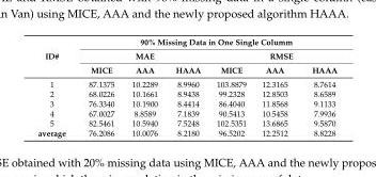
<table><thead><tr><td rowspan="3">ID#</td><td colspan="6">90% Missing Data in One Single Columm</td></tr><tr><td colspan="3">MAE</td><td colspan="3">RMSE</td></tr><tr><td>MICE</td><td>AAA</td><td>HAAA</td><td>MICE</td><td>AAA</td><td>HAAA</td></tr></thead><tbody><tr><td>1</td><td>87.1375</td><td>10.2289</td><td>8.9960</td><td>103.8879</td><td>12.3165</td><td>8.7614</td></tr><tr><td>2</td><td>68.0226</td><td>10.1661</td><td>8.9438</td><td>99.2328</td><td>12.8503</td><td>8.6589</td></tr><tr><td>3</td><td>76.3340</td><td>10.1900</td><td>8.4414</td><td>86.4040</td><td>11.8568</td><td>9.1133</td></tr><tr><td>4</td><td>67.0027</td><td>8.8589</td><td>7.1839</td><td>90.5413</td><td>10.5458</td><td>7.9936</td></tr><tr><td>5</td><td>82.5461</td><td>10.5940</td><td>7.5248</td><td>102.5351</td><td>13.6865</td><td>9.5870</td></tr><tr><td>average</td><td>76.2086</td><td>10.0076</td><td>8.2180</td><td>96.5202</td><td>12.2512</td><td>8.8228</td></tr></tbody></table>